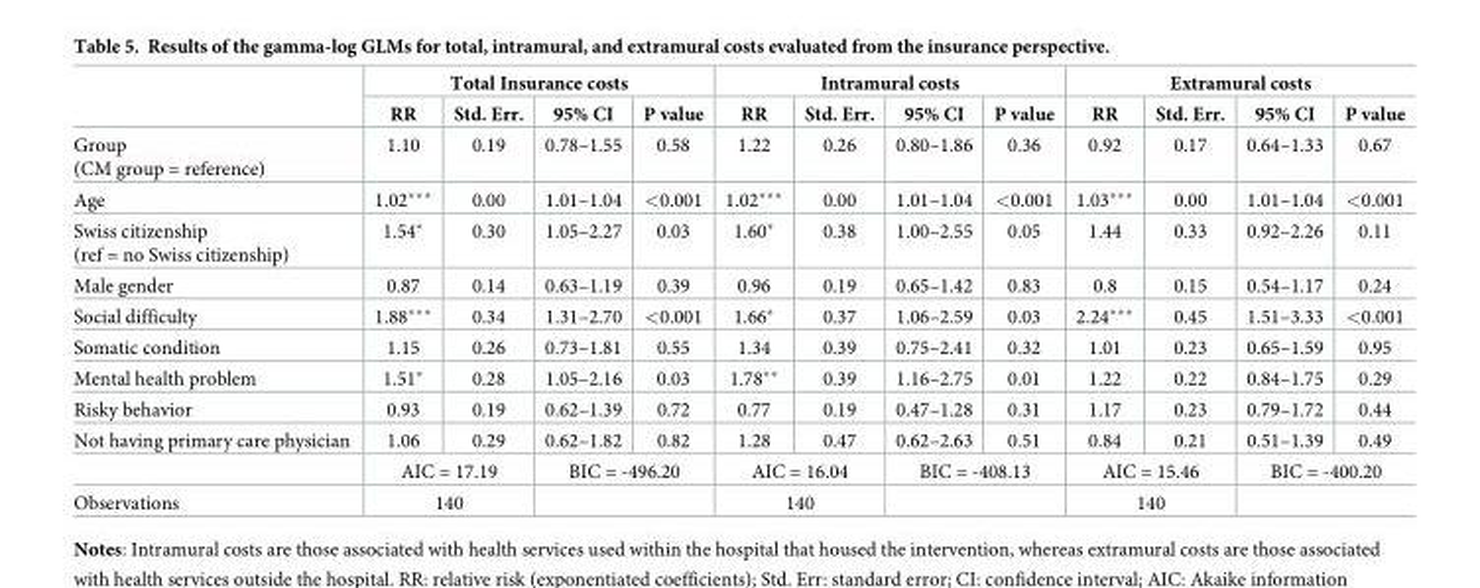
<table><thead><tr><td rowspan="2"></td><td colspan="4">Total Insurance costs</td><td colspan="4">Intramural costs</td><td colspan="4">Extramural costs</td></tr><tr><td>RR</td><td>Std. Err.</td><td>95% CI</td><td>P value</td><td>RR</td><td>Std. Err.</td><td>95% CI</td><td>P value</td><td>RR</td><td>Std. Err.</td><td>95% CI</td><td>P value</td></tr></thead><tbody><tr><td>Group (CM group = reference)</td><td>1.10</td><td>0.19</td><td>0.78–1.55</td><td>0.58</td><td>1.22</td><td>0.26</td><td>0.80–1.86</td><td>0.36</td><td>0.92</td><td>0.17</td><td>0.64–1.33</td><td>0.67</td></tr><tr><td>Age</td><td>1.02***</td><td>0.00</td><td>1.01–1.04</td><td>&lt;0.001</td><td>1.02***</td><td>0.00</td><td>1.01–1.04</td><td>&lt;0.001</td><td>1.03***</td><td>0.00</td><td>1.01–1.04</td><td>&lt;0.001</td></tr><tr><td>Swiss citizenship (ref = no Swiss citizenship)</td><td>1.54*</td><td>0.30</td><td>1.05–2.27</td><td>0.03</td><td>1.60*</td><td>0.38</td><td>1.00–2.55</td><td>0.05</td><td>1.44</td><td>0.33</td><td>0.92–2.26</td><td>0.11</td></tr><tr><td>Male gender</td><td>0.87</td><td>0.14</td><td>0.63–1.19</td><td>0.39</td><td>0.96</td><td>0.19</td><td>0.65–1.42</td><td>0.83</td><td>0.8</td><td>0.15</td><td>0.54–1.17</td><td>0.24</td></tr><tr><td>Social difficulty</td><td>1.88***</td><td>0.34</td><td>1.31–2.70</td><td>&lt;0.001</td><td>1.66*</td><td>0.37</td><td>1.06–2.59</td><td>0.03</td><td>2.24***</td><td>0.45</td><td>1.51–3.33</td><td>&lt;0.001</td></tr><tr><td>Somatic condition</td><td>1.15</td><td>0.26</td><td>0.73–1.81</td><td>0.55</td><td>1.34</td><td>0.39</td><td>0.75–2.41</td><td>0.32</td><td>1.01</td><td>0.23</td><td>0.65–1.59</td><td>0.95</td></tr><tr><td>Mental health problem</td><td>1.51*</td><td>0.28</td><td>1.05–2.16</td><td>0.03</td><td>1.78**</td><td>0.39</td><td>1.16–2.75</td><td>0.01</td><td>1.22</td><td>0.22</td><td>0.84–1.75</td><td>0.29</td></tr><tr><td>Risky behavior</td><td>0.93</td><td>0.19</td><td>0.62–1.39</td><td>0.72</td><td>0.77</td><td>0.19</td><td>0.47–1.28</td><td>0.31</td><td>1.17</td><td>0.23</td><td>0.79–1.72</td><td>0.44</td></tr><tr><td rowspan="2">Not having primary care physician</td><td>1.06</td><td>0.29</td><td>0.62–1.82</td><td>0.82</td><td>1.28</td><td>0.47</td><td>0.62–2.63</td><td>0.51</td><td>0.84</td><td>0.21</td><td>0.51–1.39</td><td>0.49</td></tr><tr><td colspan="2">AIC = 17.19</td><td colspan="2">BIC = -496.20</td><td colspan="2">AIC = 16.04</td><td colspan="2">BIC = -408.13</td><td colspan="2">AIC = 15.46</td><td colspan="2">BIC = -400.20</td></tr><tr><td>Observations</td><td colspan="2">140</td><td colspan="2"></td><td colspan="2">140</td><td colspan="2"></td><td colspan="2">140</td><td colspan="2"></td></tr></tbody></table>